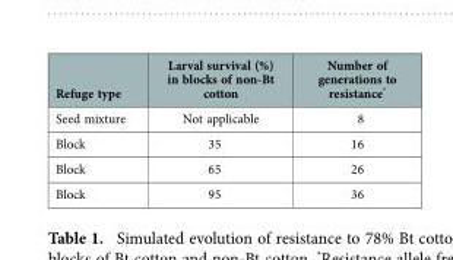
<table><thead><tr><td>Refuge type</td><td>Larval survival (%) in blocks of non-Bt cotton</td><td>Number of generations to resistance*</td></tr></thead><tbody><tr><td>Seed mixture</td><td>Not applicable</td><td>8</td></tr><tr><td>Block</td><td>35</td><td>16</td></tr><tr><td>Block</td><td>65</td><td>26</td></tr><tr><td>Block</td><td>95</td><td>36</td></tr></tbody></table>